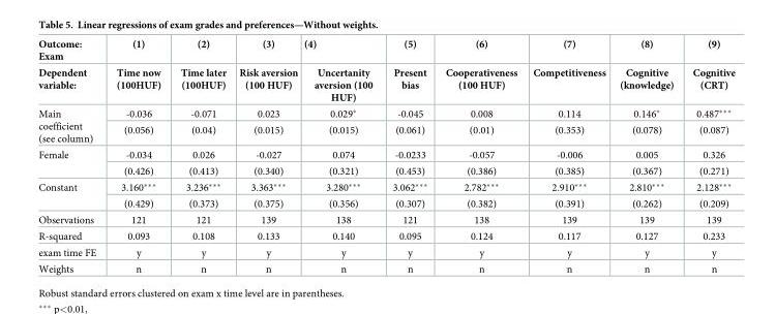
<table><thead><tr><td rowspan="2">Outcome: Exam Dependent variable:</td><td rowspan="2">(1) Time now (100HUF)</td><td rowspan="2">(2) Time later (100HUF)</td><td rowspan="2">(3) Risk aversion (100 HUF)</td><td rowspan="2">(4) Uncertanity aversion (100 HUF)</td><td rowspan="2">(5) Present bias</td><td rowspan="2">(6) Cooperativeness (100 HUF)</td><td rowspan="2">(7) Competitiveness</td><td rowspan="2">(8) Cognitive (knowledge)</td><td rowspan="2">(9) Cognitive (CRT)</td></tr><tr></tr></thead><tbody><tr><td rowspan="2">Main coefficient (see column)</td><td>-0.036</td><td>-0.071</td><td>0.023</td><td>0.029*</td><td>-0.045</td><td>0.008</td><td>0.114</td><td>0.146*</td><td>0.487***</td></tr><tr><td>(0.056)</td><td>(0.04)</td><td>(0.015)</td><td>(0.015)</td><td>(0.061)</td><td>(0.01)</td><td>(0.353)</td><td>(0.078)</td><td>(0.087)</td></tr><tr><td rowspan="2">Female</td><td>-0.034</td><td>0.026</td><td>-0.027</td><td>0.074</td><td>-0.0233</td><td>-0.057</td><td>-0.006</td><td>0.005</td><td>0.326</td></tr><tr><td>(0.426)</td><td>(0.413)</td><td>(0.340)</td><td>(0.321)</td><td>(0.453)</td><td>(0.386)</td><td>(0.385)</td><td>(0.367)</td><td>(0.271)</td></tr><tr><td rowspan="2">Constant</td><td>3.160***</td><td>3.236***</td><td>3.363***</td><td>3.280***</td><td>3.062***</td><td>2.782***</td><td>2.910***</td><td>2.810***</td><td>2.128***</td></tr><tr><td>(0.429)</td><td>(0.373)</td><td>(0.375)</td><td>(0.356)</td><td>(0.307)</td><td>(0.382)</td><td>(0.391)</td><td>(0.262)</td><td>(0.209)</td></tr><tr><td>Observations</td><td>121</td><td>121</td><td>139</td><td>138</td><td>121</td><td>138</td><td>139</td><td>139</td><td>139</td></tr><tr><td>R-squared</td><td>0.093</td><td>0.108</td><td>0.133</td><td>0.140</td><td>0.095</td><td>0.124</td><td>0.117</td><td>0.127</td><td>0.233</td></tr><tr><td>exam time FE</td><td>y</td><td>y</td><td>y</td><td>y</td><td>y</td><td>y</td><td>y</td><td>y</td><td>y</td></tr><tr><td>Weights</td><td>n</td><td>n</td><td>n</td><td>n</td><td>n</td><td>n</td><td>n</td><td>n</td><td>n</td></tr></tbody></table>